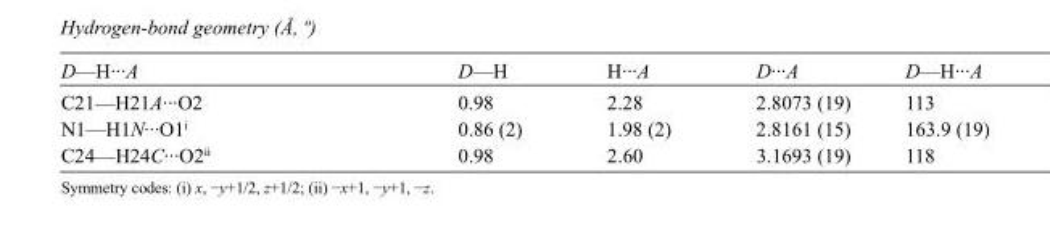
<table><tbody><tr><td>D—H···A</td><td>D—H</td><td>H···A</td><td>D···A</td><td>D—H···A</td></tr><tr><td>C21—H21A···O2</td><td>0.98</td><td>2.28</td><td>2.8073 (19)</td><td>113</td></tr><tr><td>N1—H1N···O1<sup>i</sup></td><td>0.86 (2)</td><td>1.98 (2)</td><td>2.8161 (15)</td><td>163.9 (19)</td></tr><tr><td>C24—H24C···O2<sup>ii</sup></td><td>0.98</td><td>2.60</td><td>3.1693 (19)</td><td>118</td></tr></tbody></table>